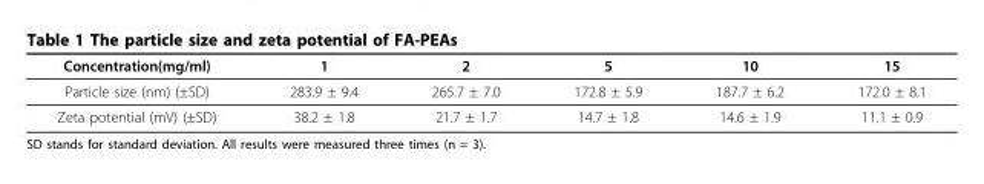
<table><thead><tr><td>Concentration(mg/ml)</td><td>1</td><td>2</td><td>5</td><td>10</td><td>15</td></tr></thead><tbody><tr><td>Particle size (nm) (±SD)</td><td>283.9 ± 9.4</td><td>265.7 ± 7.0</td><td>172.8 ± 5.9</td><td>187.7 ± 6.2</td><td>172.0 ± 8.1</td></tr><tr><td>Zeta potential (mV) (±SD)</td><td>38.2 ± 1.8</td><td>21.7 ± 1.7</td><td>14.7 ± 1.8</td><td>14.6 ± 1.9</td><td>11.1 ± 0.9</td></tr></tbody></table>